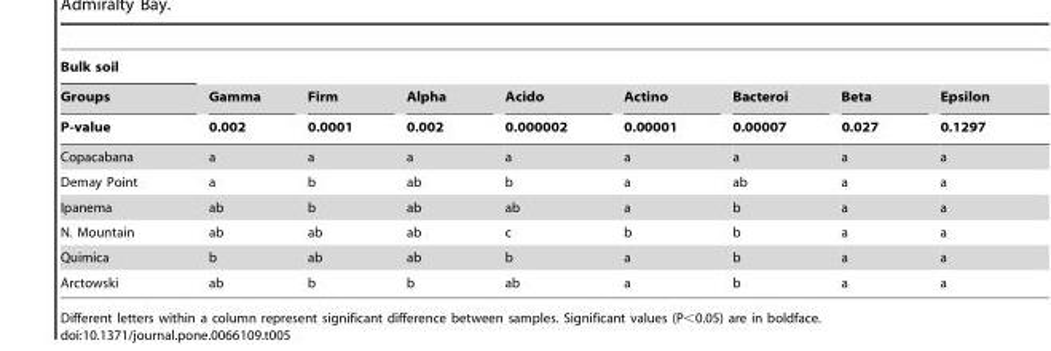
<table><thead><tr><td rowspan="3">Bulk soil Groups P-value</td><td rowspan="3">Gamma 0.002</td><td rowspan="3">Firm 0.0001</td><td rowspan="3">Alpha 0.002</td><td rowspan="3">Acido 0.000002</td><td rowspan="3">Actino 0.00001</td><td rowspan="3">Bacteroi 0.00007</td><td rowspan="3">Beta 0.027</td><td rowspan="3">Epsilon 0.1297</td></tr><tr></tr><tr></tr></thead><tbody><tr><td>Copacabana</td><td>a</td><td>a</td><td>a</td><td>a</td><td>a</td><td>a</td><td>a</td><td>a</td></tr><tr><td>Demay Point</td><td>a</td><td>b</td><td>ab</td><td>b</td><td>a</td><td>ab</td><td>a</td><td>a</td></tr><tr><td>Ipanema</td><td>ab</td><td>b</td><td>ab</td><td>ab</td><td>a</td><td>b</td><td>a</td><td>a</td></tr><tr><td>N. Mountain</td><td>ab</td><td>ab</td><td>ab</td><td>c</td><td>b</td><td>b</td><td>a</td><td>a</td></tr><tr><td>Quimica</td><td>b</td><td>ab</td><td>ab</td><td>b</td><td>a</td><td>b</td><td>a</td><td>a</td></tr><tr><td>Arctowski</td><td>ab</td><td>b</td><td>b</td><td>ab</td><td>a</td><td>b</td><td>a</td><td>a</td></tr></tbody></table>